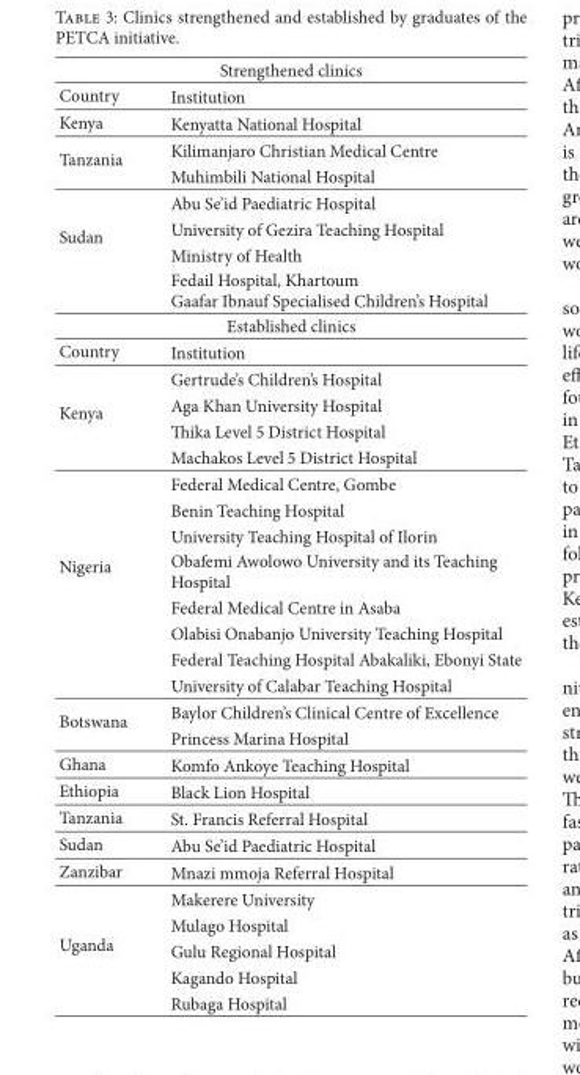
<table><thead><tr><td colspan="2">Strengthened clinics</td></tr><tr><td>Country</td><td>Institution</td></tr></thead><tbody><tr><td>Kenya</td><td>Kenyatta National Hospital</td></tr><tr><td rowspan="2">Tanzania</td><td>Kilimanjaro Christian Medical Centre</td></tr><tr><td>Muhimbili National Hospital</td></tr><tr><td rowspan="4">Sudan</td><td>Abu Se’id Paediatric Hospital</td></tr><tr><td>University of Gezira Teaching Hospital</td></tr><tr><td>Ministry of Health</td></tr><tr><td>Fedail Hospital, Khartoum Gaafar Ibnauf Specialised Children’s Hospital</td></tr><tr><td colspan="2">Established clinics</td></tr><tr><td>Country</td><td>Institution</td></tr><tr><td rowspan="4">Kenya</td><td>Gertrude’s Children’s Hospital</td></tr><tr><td>Aga Khan University Hospital</td></tr><tr><td>Thika Level 5 District Hospital</td></tr><tr><td>Machakos Level 5 District Hospital</td></tr><tr><td rowspan="8">Nigeria</td><td>Federal Medical Centre, Gombe</td></tr><tr><td>Benin Teaching Hospital</td></tr><tr><td>University Teaching Hospital of Ilorin</td></tr><tr><td>Obafemi Awolowo University and its Teaching Hospital</td></tr><tr><td>Federal Medical Centre in Asaba</td></tr><tr><td>Olabisi Onabanjo University Teaching Hospital</td></tr><tr><td>Federal Teaching Hospital Abakaliki, Ebonyi State</td></tr><tr><td>University of Calabar Teaching Hospital</td></tr><tr><td rowspan="2">Botswana</td><td>Baylor Children’s Clinical Centre of Excellence</td></tr><tr><td>Princess Marina Hospital</td></tr><tr><td>Ghana</td><td>Komfo Ankoye Teaching Hospital</td></tr><tr><td>Ethiopia</td><td>Black Lion Hospital</td></tr><tr><td>Tanzania</td><td>St. Francis Referral Hospital</td></tr><tr><td>Sudan</td><td>Abu Se’id Paediatric Hospital</td></tr><tr><td>Zanzibar</td><td>Mnazi mmoja Referral Hospital</td></tr><tr><td rowspan="5">Uganda</td><td>Makerere University</td></tr><tr><td>Mulago Hospital</td></tr><tr><td>Gulu Regional Hospital</td></tr><tr><td>Kagando Hospital</td></tr><tr><td>Rubaga Hospital</td></tr></tbody></table>